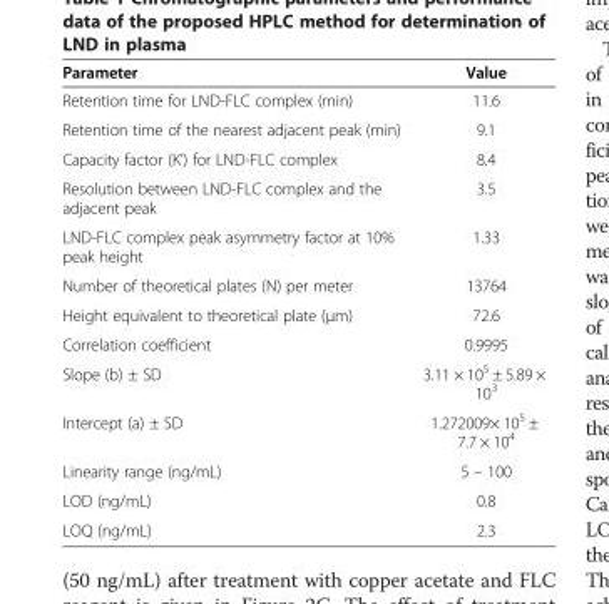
<table><thead><tr><td>Parameter</td><td>Value</td></tr></thead><tbody><tr><td>Retention time for LND-FLC complex (min)</td><td>11.6</td></tr><tr><td>Retention time of the nearest adjacent peak (min)</td><td>9.1</td></tr><tr><td>Capacity factor (K’) for LND-FLC complex</td><td>8.4</td></tr><tr><td>Resolution between LND-FLC complex and the adjacent peak</td><td>3.5</td></tr><tr><td>LND-FLC complex peak asymmetry factor at 10% peak height</td><td>1.33</td></tr><tr><td>Number of theoretical plates (N) per meter</td><td>13764</td></tr><tr><td>Height equivalent to theoretical plate (μm)</td><td>72.6</td></tr><tr><td>Correlation coefficient</td><td>0.9995</td></tr><tr><td>Slope (b) ± SD</td><td>3.11 × 10<sup>5</sup> ± 5.89 × 10<sup>3</sup></td></tr><tr><td>Intercept (a) ± SD</td><td>1.272009× 10<sup>5</sup> ± 7.7 × 10<sup>4</sup></td></tr><tr><td>Linearity range (ng/mL)</td><td>5 – 100</td></tr><tr><td>LOD (ng/mL)</td><td>0.8</td></tr><tr><td>LOQ (ng/mL)</td><td>2.3</td></tr></tbody></table>